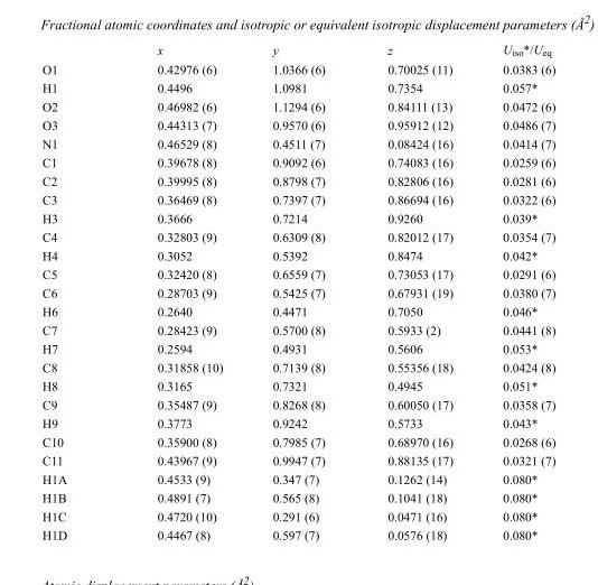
<table><thead><tr><td></td><td>x</td><td>y</td><td>z</td><td>U<sub>iso</sub>*/U<sub>eq</sub></td></tr></thead><tbody><tr><td>O1</td><td>0.42976 (6)</td><td>1.0366 (6)</td><td>0.70025 (11)</td><td>0.0383 (6)</td></tr><tr><td>H1</td><td>0.4496</td><td>1.0981</td><td>0.7354</td><td>0.057*</td></tr><tr><td>O2</td><td>0.46982 (6)</td><td>1.1294 (6)</td><td>0.84111 (13)</td><td>0.0472 (6)</td></tr><tr><td>O3</td><td>0.44313 (7)</td><td>0.9570 (6)</td><td>0.95912 (12)</td><td>0.0486 (7)</td></tr><tr><td>N1</td><td>0.46529 (8)</td><td>0.4511 (7)</td><td>0.08424 (16)</td><td>0.0414 (7)</td></tr><tr><td>C1</td><td>0.39678 (8)</td><td>0.9092 (6)</td><td>0.74083 (16)</td><td>0.0259 (6)</td></tr><tr><td>C2</td><td>0.39995 (8)</td><td>0.8798 (7)</td><td>0.82806 (16)</td><td>0.0281 (6)</td></tr><tr><td>C3</td><td>0.36469 (8)</td><td>0.7397 (7)</td><td>0.86694 (16)</td><td>0.0322 (6)</td></tr><tr><td>H3</td><td>0.3666</td><td>0.7214</td><td>0.9260</td><td>0.039*</td></tr><tr><td>C4</td><td>0.32803 (9)</td><td>0.6309 (8)</td><td>0.82012 (17)</td><td>0.0354 (7)</td></tr><tr><td>H4</td><td>0.3052</td><td>0.5392</td><td>0.8474</td><td>0.042*</td></tr><tr><td>C5</td><td>0.32420 (8)</td><td>0.6559 (7)</td><td>0.73053 (17)</td><td>0.0291 (6)</td></tr><tr><td>C6</td><td>0.28703 (9)</td><td>0.5425 (7)</td><td>0.67931 (19)</td><td>0.0380 (7)</td></tr><tr><td>H6</td><td>0.2640</td><td>0.4471</td><td>0.7050</td><td>0.046*</td></tr><tr><td>C7</td><td>0.28423 (9)</td><td>0.5700 (8)</td><td>0.5933 (2)</td><td>0.0441 (8)</td></tr><tr><td>H7</td><td>0.2594</td><td>0.4931</td><td>0.5606</td><td>0.053*</td></tr><tr><td>C8</td><td>0.31858 (10)</td><td>0.7139 (8)</td><td>0.55356 (18)</td><td>0.0424 (8)</td></tr><tr><td>H8</td><td>0.3165</td><td>0.7321</td><td>0.4945</td><td>0.051*</td></tr><tr><td>C9</td><td>0.35487 (9)</td><td>0.8268 (8)</td><td>0.60050 (17)</td><td>0.0358 (7)</td></tr><tr><td>H9</td><td>0.3773</td><td>0.9242</td><td>0.5733</td><td>0.043*</td></tr><tr><td>C10</td><td>0.35900 (8)</td><td>0.7985 (7)</td><td>0.68970 (16)</td><td>0.0268 (6)</td></tr><tr><td>C11</td><td>0.43967 (9)</td><td>0.9947 (7)</td><td>0.88135 (17)</td><td>0.0321 (7)</td></tr><tr><td>H1A</td><td>0.4533 (9)</td><td>0.347 (7)</td><td>0.1262 (14)</td><td>0.080*</td></tr><tr><td>H1B</td><td>0.4891 (7)</td><td>0.565 (8)</td><td>0.1041 (18)</td><td>0.080*</td></tr><tr><td>H1C</td><td>0.4720 (10)</td><td>0.291 (6)</td><td>0.0471 (16)</td><td>0.080*</td></tr><tr><td>H1D</td><td>0.4467 (8)</td><td>0.597 (7)</td><td>0.0576 (18)</td><td>0.080*</td></tr></tbody></table>